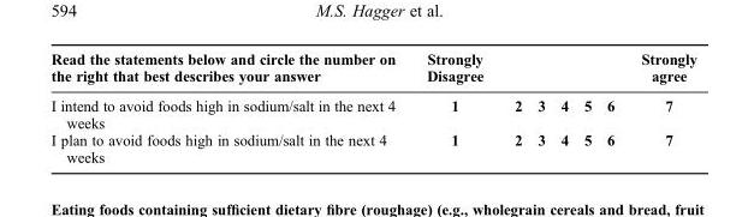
<table><thead><tr><td>Read the statements below and circle the number on the right that best describes your answer</td><td>Strongly Disagree</td><td></td><td></td><td></td><td></td><td></td><td>Strongly agree</td></tr></thead><tbody><tr><td>I intend to avoid foods high in sodium/salt in the next 4 weeks</td><td>1</td><td>2</td><td>3</td><td>4</td><td>5</td><td>6</td><td>7</td></tr><tr><td>I plan to avoid foods high in sodium/salt in the next 4 weeks</td><td>1</td><td>2</td><td>3</td><td>4</td><td>5</td><td>6</td><td>7</td></tr></tbody></table>